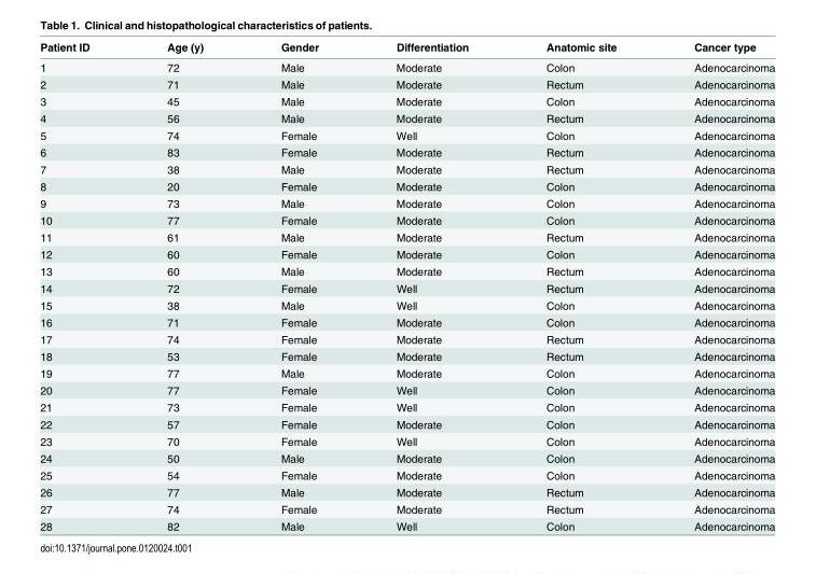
<table><thead><tr><td>Patient ID</td><td>Age (y)</td><td>Gender</td><td>Differentiation</td><td>Anatomic site</td><td>Cancer type</td></tr></thead><tbody><tr><td>1</td><td>72</td><td>Male</td><td>Moderate</td><td>Colon</td><td>Adenocarcinoma</td></tr><tr><td>2</td><td>71</td><td>Male</td><td>Moderate</td><td>Rectum</td><td>Adenocarcinoma</td></tr><tr><td>3</td><td>45</td><td>Male</td><td>Moderate</td><td>Colon</td><td>Adenocarcinoma</td></tr><tr><td>4</td><td>56</td><td>Male</td><td>Moderate</td><td>Rectum</td><td>Adenocarcinoma</td></tr><tr><td>5</td><td>74</td><td>Female</td><td>Well</td><td>Colon</td><td>Adenocarcinoma</td></tr><tr><td>6</td><td>83</td><td>Female</td><td>Moderate</td><td>Rectum</td><td>Adenocarcinoma</td></tr><tr><td>7</td><td>38</td><td>Male</td><td>Moderate</td><td>Rectum</td><td>Adenocarcinoma</td></tr><tr><td>8</td><td>20</td><td>Female</td><td>Moderate</td><td>Colon</td><td>Adenocarcinoma</td></tr><tr><td>9</td><td>73</td><td>Male</td><td>Moderate</td><td>Colon</td><td>Adenocarcinoma</td></tr><tr><td>10</td><td>77</td><td>Female</td><td>Moderate</td><td>Colon</td><td>Adenocarcinoma</td></tr><tr><td>11</td><td>61</td><td>Male</td><td>Moderate</td><td>Rectum</td><td>Adenocarcinoma</td></tr><tr><td>12</td><td>60</td><td>Female</td><td>Moderate</td><td>Colon</td><td>Adenocarcinoma</td></tr><tr><td>13</td><td>60</td><td>Male</td><td>Moderate</td><td>Rectum</td><td>Adenocarcinoma</td></tr><tr><td>14</td><td>72</td><td>Female</td><td>Well</td><td>Rectum</td><td>Adenocarcinoma</td></tr><tr><td>15</td><td>38</td><td>Male</td><td>Well</td><td>Colon</td><td>Adenocarcinoma</td></tr><tr><td>16</td><td>71</td><td>Female</td><td>Moderate</td><td>Colon</td><td>Adenocarcinoma</td></tr><tr><td>17</td><td>74</td><td>Female</td><td>Moderate</td><td>Rectum</td><td>Adenocarcinoma</td></tr><tr><td>18</td><td>53</td><td>Female</td><td>Moderate</td><td>Rectum</td><td>Adenocarcinoma</td></tr><tr><td>19</td><td>77</td><td>Male</td><td>Moderate</td><td>Colon</td><td>Adenocarcinoma</td></tr><tr><td>20</td><td>77</td><td>Female</td><td>Well</td><td>Colon</td><td>Adenocarcinoma</td></tr><tr><td>21</td><td>73</td><td>Female</td><td>Well</td><td>Colon</td><td>Adenocarcinoma</td></tr><tr><td>22</td><td>57</td><td>Female</td><td>Moderate</td><td>Colon</td><td>Adenocarcinoma</td></tr><tr><td>23</td><td>70</td><td>Female</td><td>Well</td><td>Colon</td><td>Adenocarcinoma</td></tr><tr><td>24</td><td>50</td><td>Male</td><td>Moderate</td><td>Colon</td><td>Adenocarcinoma</td></tr><tr><td>25</td><td>54</td><td>Female</td><td>Moderate</td><td>Colon</td><td>Adenocarcinoma</td></tr><tr><td>26</td><td>77</td><td>Male</td><td>Moderate</td><td>Rectum</td><td>Adenocarcinoma</td></tr><tr><td>27</td><td>74</td><td>Female</td><td>Moderate</td><td>Rectum</td><td>Adenocarcinoma</td></tr><tr><td>28</td><td>82</td><td>Male</td><td>Well</td><td>Colon</td><td>Adenocarcinoma</td></tr></tbody></table>